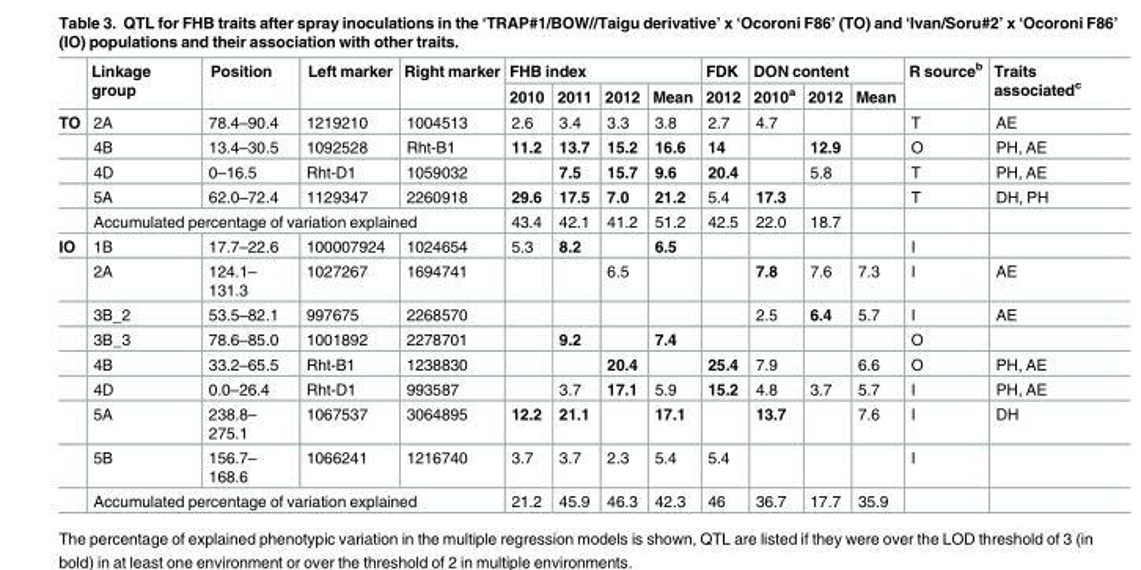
<table><thead><tr><td rowspan="2"></td><td rowspan="2">Linkage group</td><td rowspan="2">Position</td><td rowspan="2">Left marker</td><td rowspan="2">Right marker</td><td colspan="4">FHB index</td><td rowspan="2">FDK 2012</td><td colspan="3">DON content</td><td rowspan="2">R source<sup>b</sup></td><td rowspan="2">Traits associated<sup>c</sup></td></tr><tr><td>2010</td><td>2011</td><td>2012</td><td>Mean</td><td>2010<sup>a</sup></td><td>2012</td><td>Mean</td></tr></thead><tbody><tr><td rowspan="5">TO</td><td>2A</td><td>78.4–90.4</td><td>1219210</td><td>1004513</td><td>2.6</td><td>3.4</td><td>3.3</td><td>3.8</td><td>2.7</td><td>4.7</td><td></td><td></td><td>T</td><td>AE</td></tr><tr><td>4B</td><td>13.4–30.5</td><td>1092528</td><td>Rht-B1</td><td>11.2</td><td>13.7</td><td>15.2</td><td>16.6</td><td>14</td><td></td><td>12.9</td><td></td><td>O</td><td>PH, AE</td></tr><tr><td>4D</td><td>0–16.5</td><td>Rht-D1</td><td>1059032</td><td></td><td>7.5</td><td>15.7</td><td>9.6</td><td>20.4</td><td></td><td>5.8</td><td></td><td>T</td><td>PH, AE</td></tr><tr><td>5A</td><td>62.0–72.4</td><td>1129347</td><td>2260918</td><td>29.6</td><td>17.5</td><td>7.0</td><td>21.2</td><td>5.4</td><td>17.3</td><td></td><td></td><td>T</td><td>DH, PH</td></tr><tr><td colspan="4">Accumulated percentage of variation explained</td><td>43.4</td><td>42.1</td><td>41.2</td><td>51.2</td><td>42.5</td><td>22.0</td><td>18.7</td><td></td><td></td><td></td></tr><tr><td rowspan="9">IO</td><td>1B</td><td>17.7–22.6</td><td>100007924</td><td>1024654</td><td>5.3</td><td>8.2</td><td></td><td>6.5</td><td></td><td></td><td></td><td></td><td>I</td><td></td></tr><tr><td>2A</td><td>124.1– 131.3</td><td>1027267</td><td>1694741</td><td></td><td></td><td>6.5</td><td></td><td></td><td>7.8</td><td>7.6</td><td>7.3</td><td>I</td><td>AE</td></tr><tr><td>3B_2</td><td>53.5–82.1</td><td>997675</td><td>2268570</td><td></td><td></td><td></td><td></td><td></td><td>2.5</td><td>6.4</td><td>5.7</td><td>I</td><td>AE</td></tr><tr><td>3B_3</td><td>78.6–85.0</td><td>1001892</td><td>2278701</td><td></td><td>9.2</td><td></td><td>7.4</td><td></td><td></td><td></td><td></td><td>O</td><td></td></tr><tr><td>4B</td><td>33.2–65.5</td><td>Rht-B1</td><td>1238830</td><td></td><td></td><td>20.4</td><td></td><td>25.4</td><td>7.9</td><td></td><td>6.6</td><td>O</td><td>PH, AE</td></tr><tr><td>4D</td><td>0.0–26.4</td><td>Rht-D1</td><td>993587</td><td></td><td>3.7</td><td>17.1</td><td>5.9</td><td>15.2</td><td>4.8</td><td>3.7</td><td>5.7</td><td>I</td><td>PH, AE</td></tr><tr><td>5A</td><td>238.8– 275.1</td><td>1067537</td><td>3064895</td><td>12.2</td><td>21.1</td><td></td><td>17.1</td><td></td><td>13.7</td><td></td><td>7.6</td><td>I</td><td>DH</td></tr><tr><td>5B</td><td>156.7– 168.6</td><td>1066241</td><td>1216740</td><td>3.7</td><td>3.7</td><td>2.3</td><td>5.4</td><td>5.4</td><td></td><td></td><td></td><td>I</td><td></td></tr><tr><td colspan="4">Accumulated percentage of variation explained</td><td>21.2</td><td>45.9</td><td>46.3</td><td>42.3</td><td>46</td><td>36.7</td><td>17.7</td><td>35.9</td><td></td><td></td></tr></tbody></table>